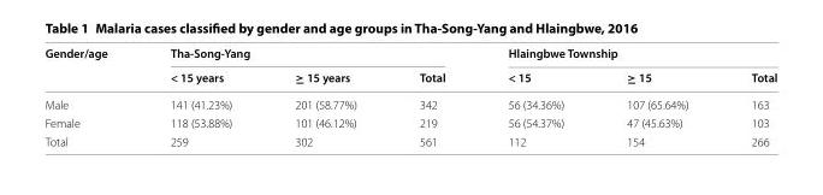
<table><thead><tr><td rowspan="2">Gender/age</td><td colspan="3">Tha-Song-Yang</td><td colspan="3">Hlaingbwe Township</td></tr><tr><td>&lt; 15 years</td><td>≥ 15 years</td><td>Total</td><td>&lt; 15</td><td>≥ 15</td><td>Total</td></tr></thead><tbody><tr><td>Male</td><td>141 (41.23%)</td><td>201 (58.77%)</td><td>342</td><td>56 (34.36%)</td><td>107 (65.64%)</td><td>163</td></tr><tr><td>Female</td><td>118 (53.88%)</td><td>101 (46.12%)</td><td>219</td><td>56 (54.37%)</td><td>47 (45.63%)</td><td>103</td></tr><tr><td>Total</td><td>259</td><td>302</td><td>561</td><td>112</td><td>154</td><td>266</td></tr></tbody></table>